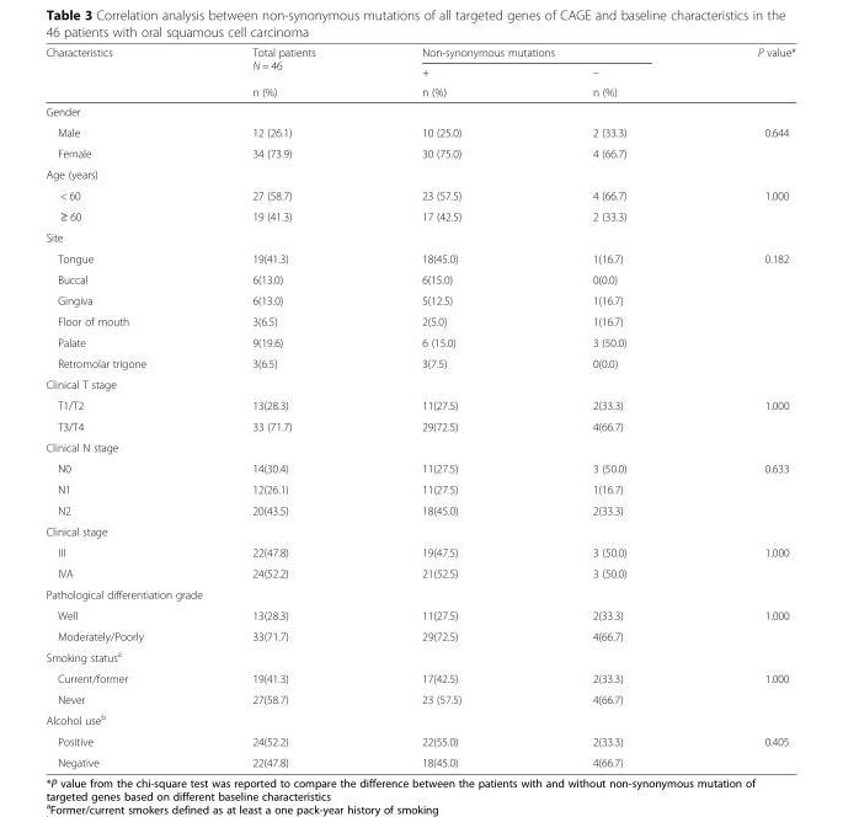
<table><thead><tr><td rowspan="3">Characteristics</td><td rowspan="3">Total patients N = 46 n (%)</td><td colspan="2">Non-synonymous mutations</td><td rowspan="3">P value*</td></tr><tr><td rowspan="2">+ n (%)</td><td rowspan="2">– n (%)</td></tr><tr></tr></thead><tbody><tr><td colspan="5">Gender</td></tr><tr><td>Male</td><td>12 (26.1)</td><td>10 (25.0)</td><td>2 (33.3)</td><td rowspan="2">0.644</td></tr><tr><td>Female</td><td>34 (73.9)</td><td>30 (75.0)</td><td>4 (66.7)</td></tr><tr><td colspan="5">Age (years)</td></tr><tr><td>&lt; 60</td><td>27 (58.7)</td><td>23 (57.5)</td><td>4 (66.7)</td><td rowspan="2">1.000</td></tr><tr><td>≥ 60</td><td>19 (41.3)</td><td>17 (42.5)</td><td>2 (33.3)</td></tr><tr><td colspan="5">Site</td></tr><tr><td>Tongue</td><td>19(41.3)</td><td>18(45.0)</td><td>1(16.7)</td><td rowspan="6">0.182</td></tr><tr><td>Buccal</td><td>6(13.0)</td><td>6(15.0)</td><td>0(0.0)</td></tr><tr><td>Gingiva</td><td>6(13.0)</td><td>5(12.5)</td><td>1(16.7)</td></tr><tr><td>Floor of mouth</td><td>3(6.5)</td><td>2(5.0)</td><td>1(16.7)</td></tr><tr><td>Palate</td><td>9(19.6)</td><td>6 (15.0)</td><td>3 (50.0)</td></tr><tr><td>Retromolar trigone</td><td>3(6.5)</td><td>3(7.5)</td><td>0(0.0)</td></tr><tr><td colspan="5">Clinical T stage</td></tr><tr><td>T1/T2</td><td>13(28.3)</td><td>11(27.5)</td><td>2(33.3)</td><td rowspan="2">1.000</td></tr><tr><td>T3/T4</td><td>33 (71.7)</td><td>29(72.5)</td><td>4(66.7)</td></tr><tr><td colspan="5">Clinical N stage</td></tr><tr><td>N0</td><td>14(30.4)</td><td>11(27.5)</td><td>3 (50.0)</td><td rowspan="3">0.633</td></tr><tr><td>N1</td><td>12(26.1)</td><td>11(27.5)</td><td>1(16.7)</td></tr><tr><td>N2</td><td>20(43.5)</td><td>18(45.0)</td><td>2(33.3)</td></tr><tr><td colspan="5">Clinical stage</td></tr><tr><td>III</td><td>22(47.8)</td><td>19(47.5)</td><td>3 (50.0)</td><td rowspan="2">1.000</td></tr><tr><td>IVA</td><td>24(52.2)</td><td>21(52.5)</td><td>3 (50.0)</td></tr><tr><td colspan="5">Pathological differentiation grade</td></tr><tr><td>Well</td><td>13(28.3)</td><td>11(27.5)</td><td>2(33.3)</td><td rowspan="2">1.000</td></tr><tr><td>Moderately/Poorly</td><td>33(71.7)</td><td>29(72.5)</td><td>4(66.7)</td></tr><tr><td colspan="5">Smoking status<sup>a</sup></td></tr><tr><td>Current/former</td><td>19(41.3)</td><td>17(42.5)</td><td>2(33.3)</td><td rowspan="2">1.000</td></tr><tr><td>Never</td><td>27(58.7)</td><td>23 (57.5)</td><td>4(66.7)</td></tr><tr><td colspan="5">Alcohol use<sup>b</sup></td></tr><tr><td>Positive</td><td>24(52.2)</td><td>22(55.0)</td><td>2(33.3)</td><td rowspan="2">0.405</td></tr><tr><td>Negative</td><td>22(47.8)</td><td>18(45.0)</td><td>4(66.7)</td></tr></tbody></table>